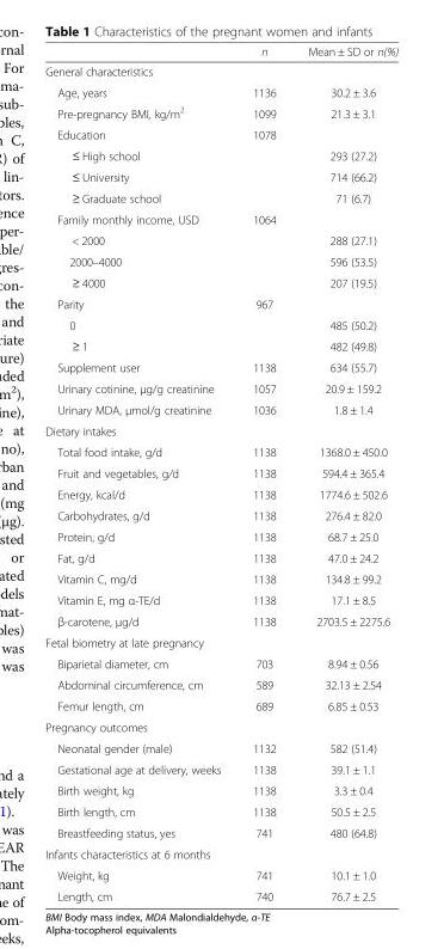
<table><thead><tr><td></td><td>n</td><td>Mean ± SD or n(%)</td></tr></thead><tbody><tr><td colspan="3">General characteristics</td></tr><tr><td>Age, years</td><td>1136</td><td>30.2 ± 3.6</td></tr><tr><td>Pre-pregnancy BMI, kg/m<sup>2</sup></td><td>1099</td><td>21.3 ± 3.1</td></tr><tr><td>Education</td><td>1078</td><td></td></tr><tr><td>≤ High school</td><td></td><td>293 (27.2)</td></tr><tr><td>≤ University</td><td></td><td>714 (66.2)</td></tr><tr><td>≥ Graduate school</td><td></td><td>71 (6.7)</td></tr><tr><td>Family monthly income, USD</td><td>1064</td><td></td></tr><tr><td>&lt; 2000</td><td></td><td>288 (27.1)</td></tr><tr><td>2000–4000</td><td></td><td>596 (53.5)</td></tr><tr><td>≥ 4000</td><td></td><td>207 (19.5)</td></tr><tr><td>Parity</td><td>967</td><td></td></tr><tr><td>0</td><td></td><td>485 (50.2)</td></tr><tr><td>≥ 1</td><td></td><td>482 (49.8)</td></tr><tr><td>Supplement user</td><td>1138</td><td>634 (55.7)</td></tr><tr><td>Urinary cotinine, μg/g creatinine</td><td>1057</td><td>20.9 ± 159.2</td></tr><tr><td>Urinary MDA, μmol/g creatinine</td><td>1036</td><td>1.8 ± 1.4</td></tr><tr><td colspan="3">Dietary intakes</td></tr><tr><td>Total food intake, g/d</td><td>1138</td><td>1368.0 ± 450.0</td></tr><tr><td>Fruit and vegetables, g/d</td><td>1138</td><td>594.4 ± 365.4</td></tr><tr><td>Energy, kcal/d</td><td>1138</td><td>1774.6 ± 502.6</td></tr><tr><td>Carbohydrates, g/d</td><td>1138</td><td>276.4 ± 82.0</td></tr><tr><td>Protein, g/d</td><td>1138</td><td>68.7 ± 25.0</td></tr><tr><td>Fat, g/d</td><td>1138</td><td>47.0 ± 24.2</td></tr><tr><td>Vitamin C, mg/d</td><td>1138</td><td>134.8 ± 99.2</td></tr><tr><td>Vitamin E, mg α-TE/d</td><td>1138</td><td>17.1 ± 8.5</td></tr><tr><td>β-carotene, μg/d</td><td>1138</td><td>2703.5 ± 2275.6</td></tr><tr><td colspan="3">Fetal biometry at late pregnancy</td></tr><tr><td>Biparietal diameter, cm</td><td>703</td><td>8.94 ± 0.56</td></tr><tr><td>Abdominal circumference, cm</td><td>589</td><td>32.13 ± 2.54</td></tr><tr><td>Femur length, cm</td><td>689</td><td>6.85 ± 0.53</td></tr><tr><td colspan="3">Pregnancy outcomes</td></tr><tr><td>Neonatal gender (male)</td><td>1132</td><td>582 (51.4)</td></tr><tr><td>Gestational age at delivery, weeks</td><td>1138</td><td>39.1 ± 1.1</td></tr><tr><td>Birth weight, kg</td><td>1138</td><td>3.3 ± 0.4</td></tr><tr><td>Birth length, cm</td><td>1138</td><td>50.5 ± 2.5</td></tr><tr><td>Breastfeeding status, yes</td><td>741</td><td>480 (64.8)</td></tr><tr><td colspan="3">Infants characteristics at 6 months</td></tr><tr><td>Weight, kg</td><td>741</td><td>10.1 ± 1.0</td></tr><tr><td>Length, cm</td><td>740</td><td>76.7 ± 2.5</td></tr></tbody></table>